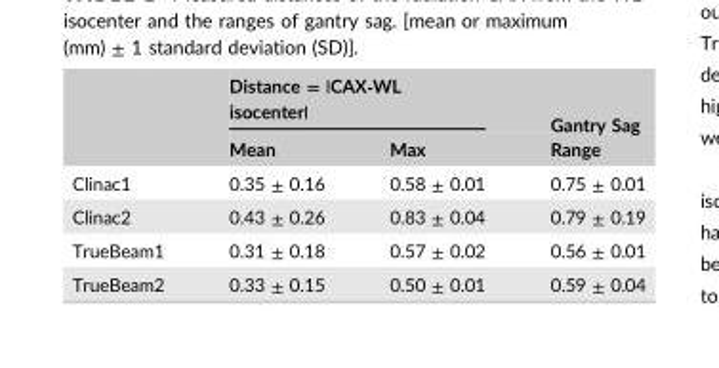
<table><thead><tr><td rowspan="2"></td><td colspan="2">Distance = |CAX‐WL isocenter|</td><td rowspan="2">Gantry Sag Range</td></tr><tr><td>Mean</td><td>Max</td></tr></thead><tbody><tr><td>Clinac1</td><td>0.35 ± 0.16</td><td>0.58 ± 0.01</td><td>0.75 ± 0.01</td></tr><tr><td>Clinac2</td><td>0.43 ± 0.26</td><td>0.83 ± 0.04</td><td>0.79 ± 0.19</td></tr><tr><td>TrueBeam1</td><td>0.31 ± 0.18</td><td>0.57 ± 0.02</td><td>0.56 ± 0.01</td></tr><tr><td>TrueBeam2</td><td>0.33 ± 0.15</td><td>0.50 ± 0.01</td><td>0.59 ± 0.04</td></tr></tbody></table>